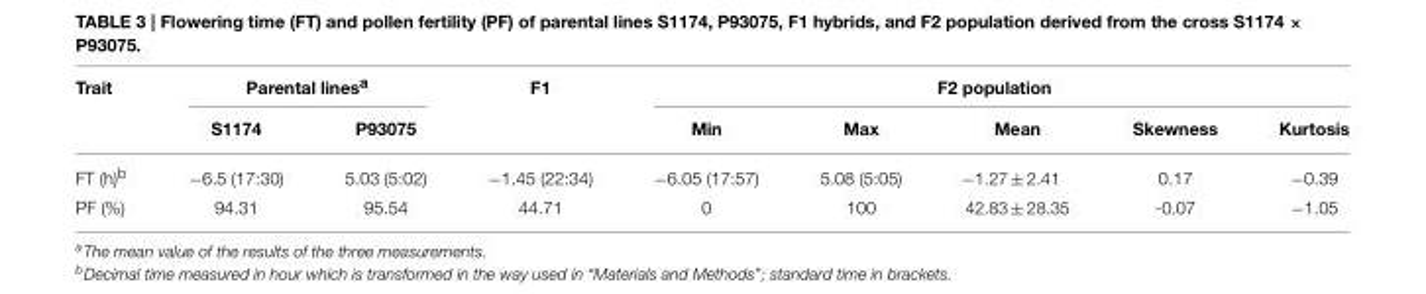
<table><thead><tr><td rowspan="2">Trait</td><td colspan="2">Parental lines<sup>a</sup></td><td rowspan="2">F1</td><td colspan="5">F2 population</td></tr><tr><td>S1174</td><td>P93075</td><td>Min</td><td>Max</td><td>Mean</td><td>Skewness</td><td>Kurtosis</td></tr></thead><tbody><tr><td>FT (h)<sup>b</sup></td><td>−6.5 (17:30)</td><td>5.03 (5:02)</td><td>−1.45 (22:34)</td><td>−6.05 (17:57)</td><td>5.08 (5:05)</td><td>−1.27 ± 2.41</td><td>0.17</td><td>−0.39</td></tr><tr><td>PF (%)</td><td>94.31</td><td>95.54</td><td>44.71</td><td>0</td><td>100</td><td>42.83 ± 28.35</td><td>-0.07</td><td>−1.05</td></tr></tbody></table>